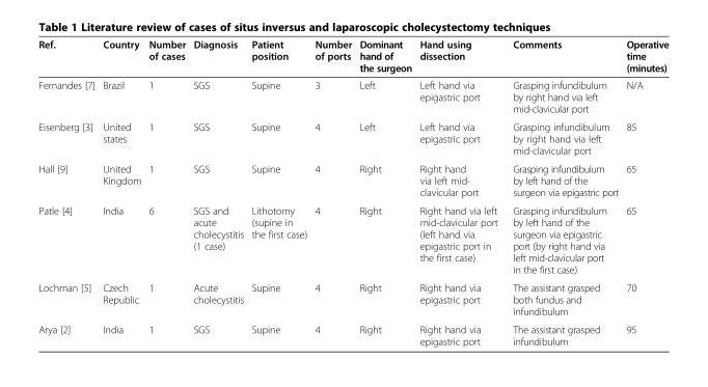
<table><thead><tr><td>Ref.</td><td>Country</td><td>Number of cases</td><td>Diagnosis</td><td>Patient position</td><td>Number of ports</td><td>Dominant hand of the surgeon</td><td>Hand using dissection</td><td>Comments</td><td>Operative time (minutes)</td></tr></thead><tbody><tr><td>Fernandes [7]</td><td>Brazil</td><td>1</td><td>SGS</td><td>Supine</td><td>3</td><td>Left</td><td>Left hand via epigastric port</td><td>Grasping infundibulum by right hand via left mid-clavicular port</td><td>N/A</td></tr><tr><td>Eisenberg [3]</td><td>United states</td><td>1</td><td>SGS</td><td>Supine</td><td>4</td><td>Left</td><td>Left hand via epigastric port</td><td>Grasping infundibulum by right hand via left mid-clavicular port</td><td>85</td></tr><tr><td>Hall [9]</td><td>United Kingdom</td><td>1</td><td>SGS</td><td>Supine</td><td>4</td><td>Right</td><td>Right hand via left mid- clavicular port</td><td>Grasping infundibulum by left hand of the surgeon via epigastric port</td><td>65</td></tr><tr><td>Patle [4]</td><td>India</td><td>6</td><td>SGS and acute cholecystitis (1 case)</td><td>Lithotomy (supine in the first case)</td><td>4</td><td>Right</td><td>Right hand via left mid-clavicular port (left hand via epigastric port in the first case)</td><td>Grasping infundibulum by left hand of the surgeon via epigastric port (by right hand via left mid-clavicular port in the first case)</td><td>65</td></tr><tr><td>Lochman [5]</td><td>Czech Republic</td><td>1</td><td>Acute cholecystitis</td><td>Supine</td><td>4</td><td>Right</td><td>Right hand via epigastric port</td><td>The assistant grasped both fundus and infundibulum</td><td>70</td></tr><tr><td>Arya [2]</td><td>India</td><td>1</td><td>SGS</td><td>Supine</td><td>4</td><td>Right</td><td>Right hand via epigastric port</td><td>The assistant grasped infundibulum</td><td>95</td></tr></tbody></table>